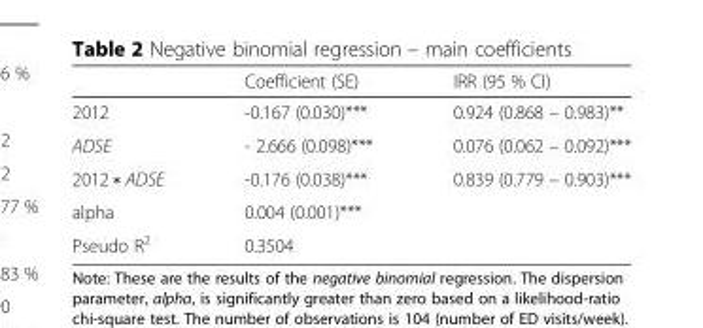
<table><thead><tr><td></td><td>Coefficient (SE)</td><td>IRR (95 % CI)</td></tr></thead><tbody><tr><td>2012</td><td>-0.167 (0.030)***</td><td>0.924 (0.868 – 0.983)**</td></tr><tr><td>ADSE</td><td>- 2.666 (0.098)***</td><td>0.076 (0.062 – 0.092)***</td></tr><tr><td>2012 ∗ ADSE</td><td>-0.176 (0.038)***</td><td>0.839 (0.779 – 0.903)***</td></tr><tr><td>alpha</td><td colspan="2">0.004 (0.001)***</td></tr><tr><td>Pseudo R<sup>2</sup></td><td colspan="2">0.3504</td></tr></tbody></table>